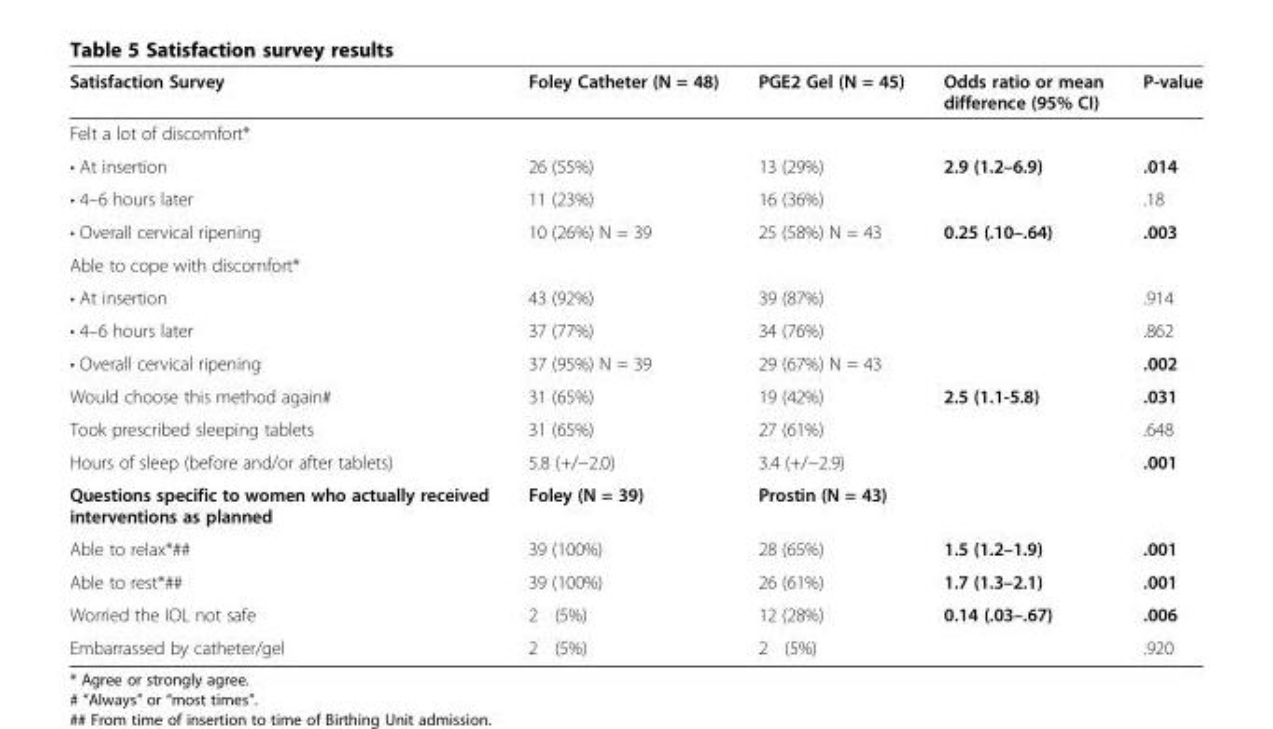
<table><thead><tr><td>Satisfaction Survey</td><td>Foley Catheter (N = 48)</td><td>PGE2 Gel (N = 45)</td><td>Odds ratio or mean difference (95% CI)</td><td>P-value</td></tr></thead><tbody><tr><td colspan="5">Felt a lot of discomfort*</td></tr><tr><td>• At insertion</td><td>26 (55%)</td><td>13 (29%)</td><td>2.9 (1.2–6.9)</td><td>.014</td></tr><tr><td>• 4–6 hours later</td><td>11 (23%)</td><td>16 (36%)</td><td></td><td>.18</td></tr><tr><td>• Overall cervical ripening</td><td>10 (26%) N = 39</td><td>25 (58%) N = 43</td><td>0.25 (.10–.64)</td><td>.003</td></tr><tr><td colspan="5">Able to cope with discomfort*</td></tr><tr><td>• At insertion</td><td>43 (92%)</td><td>39 (87%)</td><td></td><td>.914</td></tr><tr><td>• 4–6 hours later</td><td>37 (77%)</td><td>34 (76%)</td><td></td><td>.862</td></tr><tr><td>• Overall cervical ripening</td><td>37 (95%) N = 39</td><td>29 (67%) N = 43</td><td></td><td>.002</td></tr><tr><td>Would choose this method again#</td><td>31 (65%)</td><td>19 (42%)</td><td>2.5 (1.1-5.8)</td><td>.031</td></tr><tr><td>Took prescribed sleeping tablets</td><td>31 (65%)</td><td>27 (61%)</td><td></td><td>.648</td></tr><tr><td>Hours of sleep (before and/or after tablets)</td><td>5.8 (+/−2.0)</td><td>3.4 (+/−2.9)</td><td></td><td>.001</td></tr><tr><td>Questions specific to women who actually received interventions as planned</td><td>Foley (N = 39)</td><td>Prostin (N = 43)</td><td></td><td></td></tr><tr><td>Able to relax*##</td><td>39 (100%)</td><td>28 (65%)</td><td>1.5 (1.2–1.9)</td><td>.001</td></tr><tr><td>Able to rest*##</td><td>39 (100%)</td><td>26 (61%)</td><td>1.7 (1.3–2.1)</td><td>.001</td></tr><tr><td>Worried the IOL not safe</td><td>2 (5%)</td><td>12 (28%)</td><td>0.14 (.03–.67)</td><td>.006</td></tr><tr><td>Embarrassed by catheter/gel</td><td>2 (5%)</td><td>2 (5%)</td><td></td><td>.920</td></tr></tbody></table>